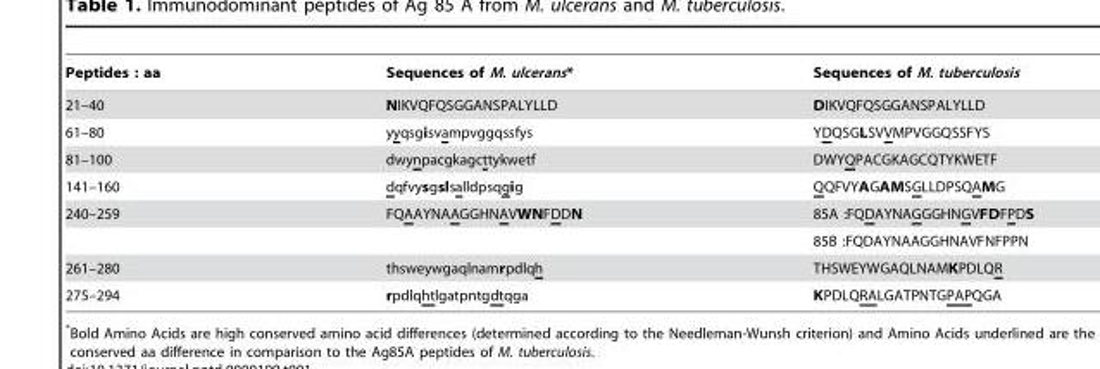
<table><thead><tr><td>Peptides : aa</td><td>Sequences of M. ulcerans*</td><td>Sequences of M. tuberculosis</td></tr></thead><tbody><tr><td>21–40</td><td>NIKVQFQSGGANSPALYLLD</td><td>DIKVQFQSGGANSPALYLLD</td></tr><tr><td>61–80</td><td>yyqsgisvampvggqssfys</td><td>YDQSGLSVVMPVGGQSSFYS</td></tr><tr><td>81–100</td><td>dwynpacgkagcttykwetf</td><td>DWYQPACGKAGCQTYKWETF</td></tr><tr><td>141–160</td><td>dqfvysgslsalldpsqgig</td><td>QQFVYAGAMSGLLDPSQAMG</td></tr><tr><td rowspan="2">240–259</td><td>FQAAYNAAGGHNAVWNFDDN</td><td>85A :FQDAYNAGGGHNGVFDFPDS</td></tr><tr><td></td><td>85B :FQDAYNAAGGHNAVFNFPPN</td></tr><tr><td>261–280</td><td>thsweywgaqlnamrpdlqh</td><td>THSWEYWGAQLNAMKPDLQR</td></tr><tr><td>275–294</td><td>rpdlqhtlgatpntgdtqga</td><td>KPDLQRALGATPNTGPAPQGA</td></tr></tbody></table>